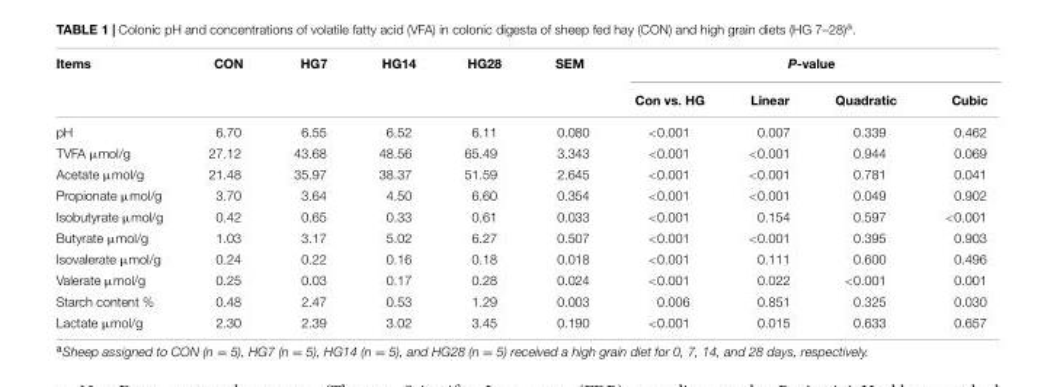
<table><thead><tr><td rowspan="2">Items</td><td rowspan="2">CON</td><td rowspan="2">HG7</td><td rowspan="2">HG14</td><td rowspan="2">HG28</td><td rowspan="2">SEM</td><td colspan="4">P-value</td></tr><tr><td>Con vs. HG</td><td>Linear</td><td>Quadratic</td><td>Cubic</td></tr></thead><tbody><tr><td>pH</td><td>6.70</td><td>6.55</td><td>6.52</td><td>6.11</td><td>0.080</td><td>&lt;0.001</td><td>0.007</td><td>0.339</td><td>0.462</td></tr><tr><td>TVFA µmol/g</td><td>27.12</td><td>43.68</td><td>48.56</td><td>65.49</td><td>3.343</td><td>&lt;0.001</td><td>&lt;0.001</td><td>0.944</td><td>0.069</td></tr><tr><td>Acetate µmol/g</td><td>21.48</td><td>35.97</td><td>38.37</td><td>51.59</td><td>2.645</td><td>&lt;0.001</td><td>&lt;0.001</td><td>0.781</td><td>0.041</td></tr><tr><td>Propionate µmol/g</td><td>3.70</td><td>3.64</td><td>4.50</td><td>6.60</td><td>0.354</td><td>&lt;0.001</td><td>&lt;0.001</td><td>0.049</td><td>0.902</td></tr><tr><td>Isobutyrate µmol/g</td><td>0.42</td><td>0.65</td><td>0.33</td><td>0.61</td><td>0.033</td><td>&lt;0.001</td><td>0.154</td><td>0.597</td><td>&lt;0.001</td></tr><tr><td>Butyrate µmol/g</td><td>1.03</td><td>3.17</td><td>5.02</td><td>6.27</td><td>0.507</td><td>&lt;0.001</td><td>&lt;0.001</td><td>0.395</td><td>0.903</td></tr><tr><td>Isovalerate µmol/g</td><td>0.24</td><td>0.22</td><td>0.16</td><td>0.18</td><td>0.018</td><td>&lt;0.001</td><td>0.111</td><td>0.600</td><td>0.496</td></tr><tr><td>Valerate µmol/g</td><td>0.25</td><td>0.03</td><td>0.17</td><td>0.28</td><td>0.024</td><td>&lt;0.001</td><td>0.022</td><td>&lt;0.001</td><td>0.001</td></tr><tr><td>Starch content %</td><td>0.48</td><td>2.47</td><td>0.53</td><td>1.29</td><td>0.003</td><td>0.006</td><td>0.851</td><td>0.325</td><td>0.030</td></tr><tr><td>Lactate µmol/g</td><td>2.30</td><td>2.39</td><td>3.02</td><td>3.45</td><td>0.190</td><td>&lt;0.001</td><td>0.015</td><td>0.633</td><td>0.657</td></tr></tbody></table>